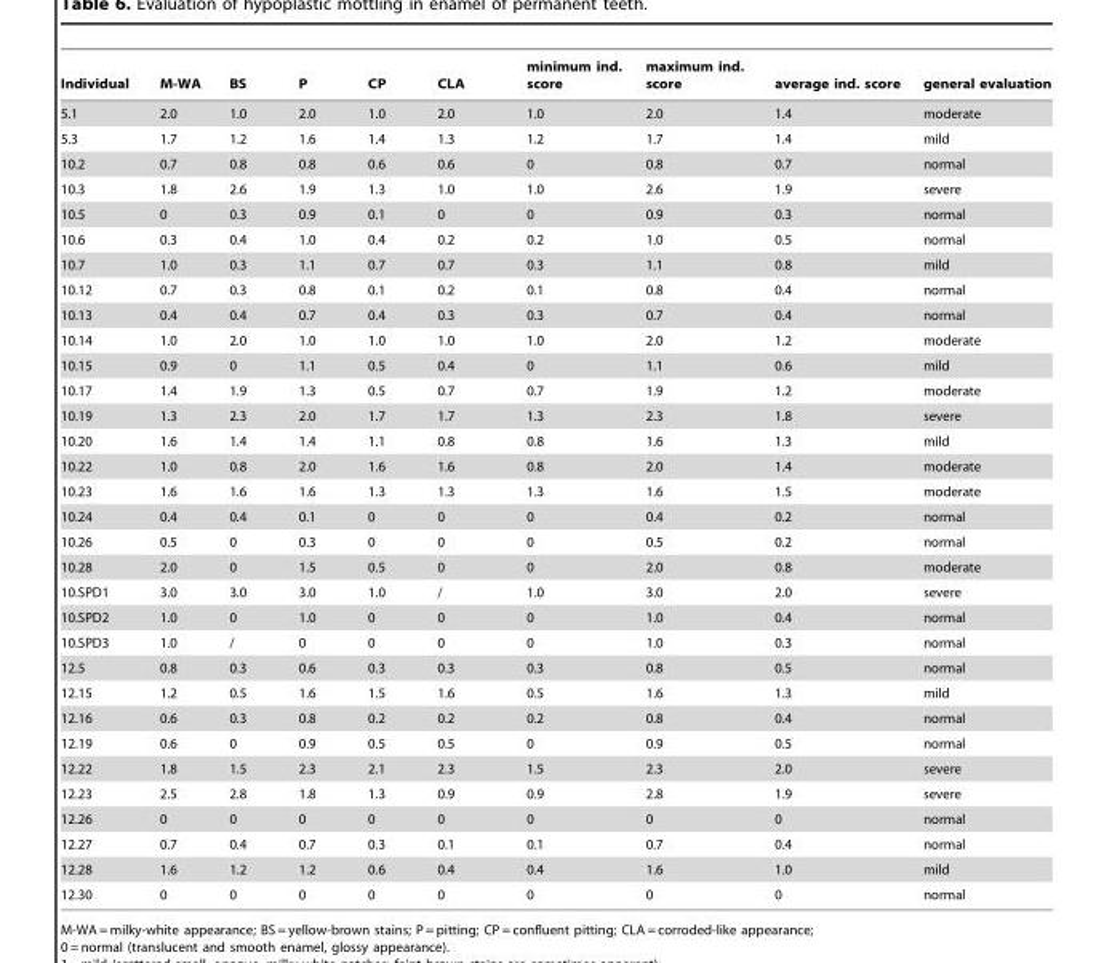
<table><thead><tr><td>Individual</td><td>M-WA</td><td>BS</td><td>P</td><td>CP</td><td>CLA</td><td>minimum ind. score</td><td>maximum ind. score</td><td>average ind. score</td><td>general evaluation</td></tr></thead><tbody><tr><td>5.1</td><td>2.0</td><td>1.0</td><td>2.0</td><td>1.0</td><td>2.0</td><td>1.0</td><td>2.0</td><td>1.4</td><td>moderate</td></tr><tr><td>5.3</td><td>1.7</td><td>1.2</td><td>1.6</td><td>1.4</td><td>1.3</td><td>1.2</td><td>1.7</td><td>1.4</td><td>mild</td></tr><tr><td>10.2</td><td>0.7</td><td>0.8</td><td>0.8</td><td>0.6</td><td>0.6</td><td>0</td><td>0.8</td><td>0.7</td><td>normal</td></tr><tr><td>10.3</td><td>1.8</td><td>2.6</td><td>1.9</td><td>1.3</td><td>1.0</td><td>1.0</td><td>2.6</td><td>1.9</td><td>severe</td></tr><tr><td>10.5</td><td>0</td><td>0.3</td><td>0.9</td><td>0.1</td><td>0</td><td>0</td><td>0.9</td><td>0.3</td><td>normal</td></tr><tr><td>10.6</td><td>0.3</td><td>0.4</td><td>1.0</td><td>0.4</td><td>0.2</td><td>0.2</td><td>1.0</td><td>0.5</td><td>normal</td></tr><tr><td>10.7</td><td>1.0</td><td>0.3</td><td>1.1</td><td>0.7</td><td>0.7</td><td>0.3</td><td>1.1</td><td>0.8</td><td>mild</td></tr><tr><td>10.12</td><td>0.7</td><td>0.3</td><td>0.8</td><td>0.1</td><td>0.2</td><td>0.1</td><td>0.8</td><td>0.4</td><td>normal</td></tr><tr><td>10.13</td><td>0.4</td><td>0.4</td><td>0.7</td><td>0.4</td><td>0.3</td><td>0.3</td><td>0.7</td><td>0.4</td><td>normal</td></tr><tr><td>10.14</td><td>1.0</td><td>2.0</td><td>1.0</td><td>1.0</td><td>1.0</td><td>1.0</td><td>2.0</td><td>1.2</td><td>moderate</td></tr><tr><td>10.15</td><td>0.9</td><td>0</td><td>1.1</td><td>0.5</td><td>0.4</td><td>0</td><td>1.1</td><td>0.6</td><td>mild</td></tr><tr><td>10.17</td><td>1.4</td><td>1.9</td><td>1.3</td><td>0.5</td><td>0.7</td><td>0.7</td><td>1.9</td><td>1.2</td><td>moderate</td></tr><tr><td>10.19</td><td>1.3</td><td>2.3</td><td>2.0</td><td>1.7</td><td>1.7</td><td>1.3</td><td>2.3</td><td>1.8</td><td>severe</td></tr><tr><td>10.20</td><td>1.6</td><td>1.4</td><td>1.4</td><td>1.1</td><td>0.8</td><td>0.8</td><td>1.6</td><td>1.3</td><td>mild</td></tr><tr><td>10.22</td><td>1.0</td><td>0.8</td><td>2.0</td><td>1.6</td><td>1.6</td><td>0.8</td><td>2.0</td><td>1.4</td><td>moderate</td></tr><tr><td>10.23</td><td>1.6</td><td>1.6</td><td>1.6</td><td>1.3</td><td>1.3</td><td>1.3</td><td>1.6</td><td>1.5</td><td>moderate</td></tr><tr><td>10.24</td><td>0.4</td><td>0.4</td><td>0.1</td><td>0</td><td>0</td><td>0</td><td>0.4</td><td>0.2</td><td>normal</td></tr><tr><td>10.26</td><td>0.5</td><td>0</td><td>0.3</td><td>0</td><td>0</td><td>0</td><td>0.5</td><td>0.2</td><td>normal</td></tr><tr><td>10.28</td><td>2.0</td><td>0</td><td>1.5</td><td>0.5</td><td>0</td><td>0</td><td>2.0</td><td>0.8</td><td>moderate</td></tr><tr><td>10.SPD1</td><td>3.0</td><td>3.0</td><td>3.0</td><td>1.0</td><td>/</td><td>1.0</td><td>3.0</td><td>2.0</td><td>severe</td></tr><tr><td>10.SPD2</td><td>1.0</td><td>0</td><td>1.0</td><td>0</td><td>0</td><td>0</td><td>1.0</td><td>0.4</td><td>normal</td></tr><tr><td>10.SPD3</td><td>1.0</td><td>/</td><td>0</td><td>0</td><td>0</td><td>0</td><td>1.0</td><td>0.3</td><td>normal</td></tr><tr><td>12.5</td><td>0.8</td><td>0.3</td><td>0.6</td><td>0.3</td><td>0.3</td><td>0.3</td><td>0.8</td><td>0.5</td><td>normal</td></tr><tr><td>12.15</td><td>1.2</td><td>0.5</td><td>1.6</td><td>1.5</td><td>1.6</td><td>0.5</td><td>1.6</td><td>1.3</td><td>mild</td></tr><tr><td>12.16</td><td>0.6</td><td>0.3</td><td>0.8</td><td>0.2</td><td>0.2</td><td>0.2</td><td>0.8</td><td>0.4</td><td>normal</td></tr><tr><td>12.19</td><td>0.6</td><td>0</td><td>0.9</td><td>0.5</td><td>0.5</td><td>0</td><td>0.9</td><td>0.5</td><td>normal</td></tr><tr><td>12.22</td><td>1.8</td><td>1.5</td><td>2.3</td><td>2.1</td><td>2.3</td><td>1.5</td><td>2.3</td><td>2.0</td><td>severe</td></tr><tr><td>12.23</td><td>2.5</td><td>2.8</td><td>1.8</td><td>1.3</td><td>0.9</td><td>0.9</td><td>2.8</td><td>1.9</td><td>severe</td></tr><tr><td>12.26</td><td>0</td><td>0</td><td>0</td><td>0</td><td>0</td><td>0</td><td>0</td><td>0</td><td>normal</td></tr><tr><td>12.27</td><td>0.7</td><td>0.4</td><td>0.7</td><td>0.3</td><td>0.1</td><td>0.1</td><td>0.7</td><td>0.4</td><td>normal</td></tr><tr><td>12.28</td><td>1.6</td><td>1.2</td><td>1.2</td><td>0.6</td><td>0.4</td><td>0.4</td><td>1.6</td><td>1.0</td><td>mild</td></tr><tr><td>12.30</td><td>0</td><td>0</td><td>0</td><td>0</td><td>0</td><td>0</td><td>0</td><td>0</td><td>normal</td></tr></tbody></table>